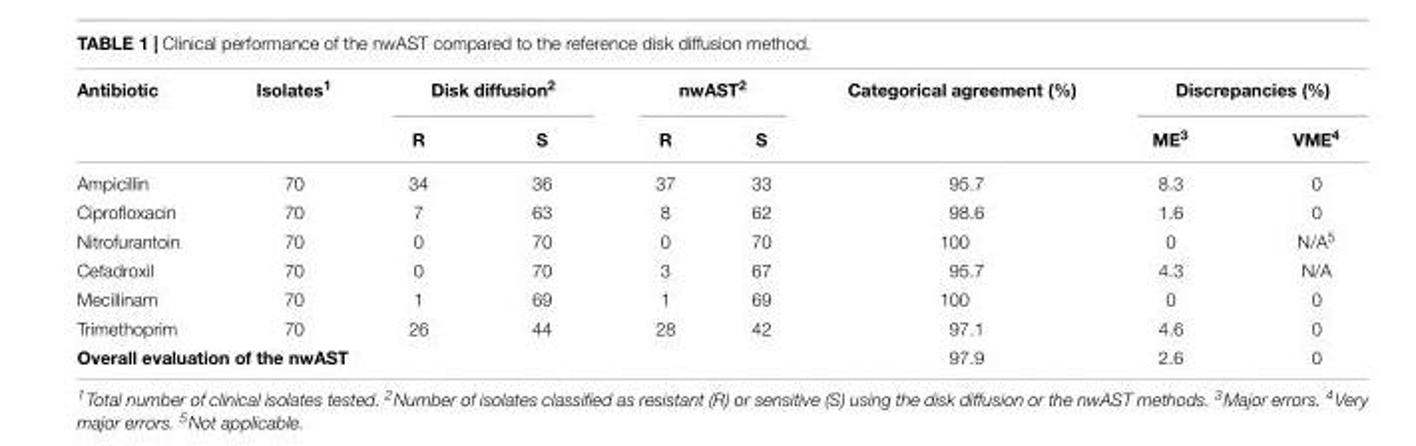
<table><thead><tr><td rowspan="2">Antibiotic</td><td rowspan="2">Isolates<sup>1</sup></td><td colspan="2">Disk diffusion<sup>2</sup></td><td colspan="2">nwAST<sup>2</sup></td><td rowspan="2">Categorical agreement (%)</td><td colspan="2">Discrepancies (%)</td></tr><tr><td>R</td><td>S</td><td>R</td><td>S</td><td>ME<sup>3</sup></td><td>VME<sup>4</sup></td></tr></thead><tbody><tr><td>Ampicillin</td><td>70</td><td>34</td><td>36</td><td>37</td><td>33</td><td>95.7</td><td>8.3</td><td>0</td></tr><tr><td>Ciprofloxacin</td><td>70</td><td>7</td><td>63</td><td>8</td><td>62</td><td>98.6</td><td>1.6</td><td>0</td></tr><tr><td>Nitrofurantoin</td><td>70</td><td>0</td><td>70</td><td>0</td><td>70</td><td>100</td><td>0</td><td>N/A<sup>5</sup></td></tr><tr><td>Cefadroxil</td><td>70</td><td>0</td><td>70</td><td>3</td><td>67</td><td>95.7</td><td>4.3</td><td>N/A</td></tr><tr><td>Mecillinam</td><td>70</td><td>1</td><td>69</td><td>1</td><td>69</td><td>100</td><td>0</td><td>0</td></tr><tr><td>Trimethoprim</td><td>70</td><td>26</td><td>44</td><td>28</td><td>42</td><td>97.1</td><td>4.6</td><td>0</td></tr><tr><td colspan="6">Overall evaluation of the nwAST</td><td>97.9</td><td>2.6</td><td>0</td></tr></tbody></table>